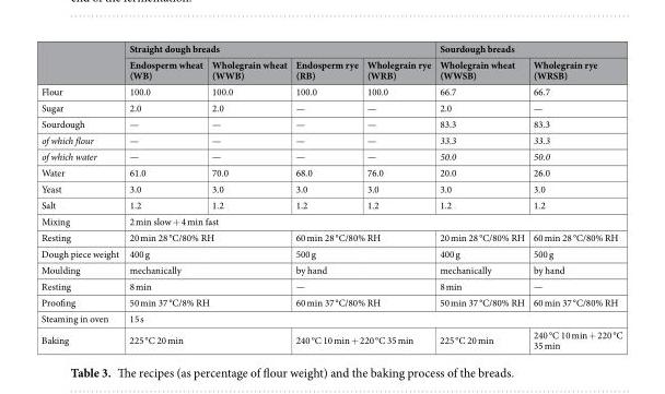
<table><thead><tr><td rowspan="2"></td><td colspan="4">Straight dough breads</td><td colspan="2">Sourdough breads</td></tr><tr><td>Endosperm wheat (WB)</td><td>Wholegrain wheat (WWB)</td><td>Endosperm rye (RB)</td><td>Wholegrain rye (WRB)</td><td>Wholegrain wheat (WWSB)</td><td>Wholegrain rye (WRSB)</td></tr></thead><tbody><tr><td>Flour</td><td>100.0</td><td>100.0</td><td>100.0</td><td>100.0</td><td>66.7</td><td>66.7</td></tr><tr><td>Sugar</td><td>2.0</td><td>2.0</td><td>—</td><td>—</td><td>2.0</td><td>—</td></tr><tr><td>Sourdough</td><td>—</td><td>—</td><td>—</td><td>—</td><td>83.3</td><td>83.3</td></tr><tr><td>of which flour</td><td>—</td><td>—</td><td>—</td><td>—</td><td>33.3</td><td>33.3</td></tr><tr><td>of which water</td><td>—</td><td>—</td><td>—</td><td>—</td><td>50.0</td><td>50.0</td></tr><tr><td>Water</td><td>61.0</td><td>70.0</td><td>68.0</td><td>76.0</td><td>20.0</td><td>26.0</td></tr><tr><td>Yeast</td><td>3.0</td><td>3.0</td><td>3.0</td><td>3.0</td><td>3.0</td><td>3.0</td></tr><tr><td>Salt</td><td>1.2</td><td>1.2</td><td>1.2</td><td>1.2</td><td>1.2</td><td>1.2</td></tr><tr><td>Mixing</td><td colspan="6">2 min slow + 4 min fast</td></tr><tr><td>Resting</td><td colspan="2">20 min 28 °C/80% RH</td><td colspan="2">60 min 28 °C/80% RH</td><td>20 min 28 °C/80% RH</td><td>60 min 28 °C/80% RH</td></tr><tr><td>Dough piece weight</td><td colspan="2">400 g</td><td colspan="2">500 g</td><td>400 g</td><td>500 g</td></tr><tr><td>Moulding</td><td colspan="2">mechanically</td><td colspan="2">by hand</td><td>mechanically</td><td>by hand</td></tr><tr><td>Resting</td><td colspan="2">8 min</td><td colspan="2">—</td><td>8 min</td><td>—</td></tr><tr><td>Proofing</td><td colspan="2">50 min 37 °C/8% RH</td><td colspan="2">60 min 37 °C/80% RH</td><td>50 min 37 °C/80% RH</td><td>60 min 37 °C/80% RH</td></tr><tr><td>Steaming in oven</td><td colspan="6">15 s</td></tr><tr><td>Baking</td><td colspan="2">225 °C 20 min</td><td colspan="2">240 °C 10 min + 220 °C 35 min</td><td>225 °C 20 min</td><td>240 °C 10 min + 220 °C 35 min</td></tr></tbody></table>